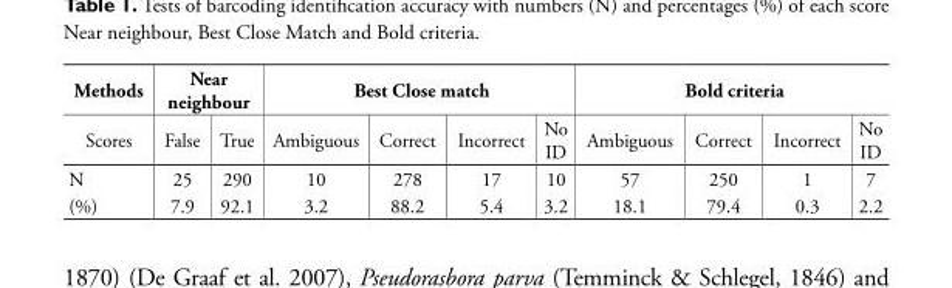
<table><thead><tr><td rowspan="2">Methods Scores</td><td colspan="2">Near neighbour</td><td colspan="4">Best Close match</td><td colspan="4">Bold criteria</td></tr><tr><td>False</td><td>True</td><td>Ambiguous</td><td>Correct</td><td>Incorrect</td><td>No ID</td><td>Ambiguous</td><td>Correct</td><td>Incorrect</td><td>No ID</td></tr></thead><tbody><tr><td>N</td><td>25</td><td>290</td><td>10</td><td>278</td><td>17</td><td>10</td><td>57</td><td>250</td><td>1</td><td>7</td></tr><tr><td>(%)</td><td>7.9</td><td>92.1</td><td>3.2</td><td>88.2</td><td>5.4</td><td>3.2</td><td>18.1</td><td>79.4</td><td>0.3</td><td>2.2</td></tr></tbody></table>